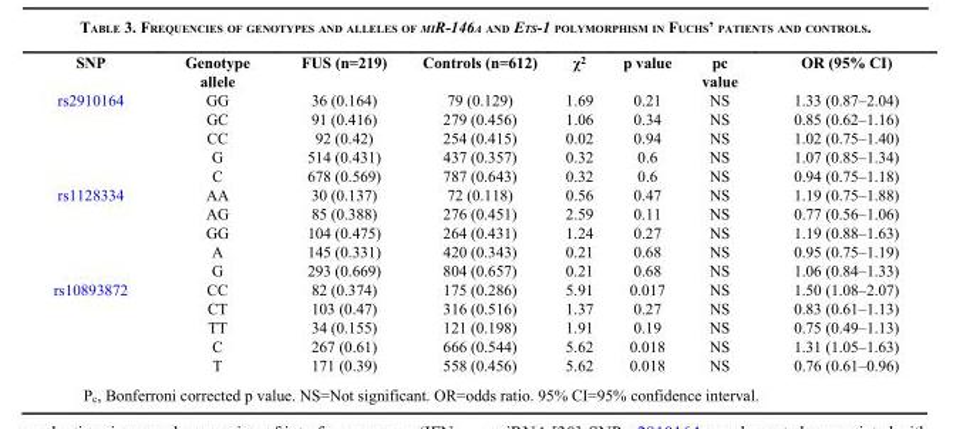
<table><thead><tr><td>SNP</td><td>Genotype allele</td><td>FUS (n=219)</td><td>Controls (n=612)</td><td>χ<sup>2</sup></td><td>p value</td><td>pc value</td><td>OR (95% CI)</td></tr></thead><tbody><tr><td rowspan="5">rs2910164</td><td>GG</td><td>36 (0.164)</td><td>79 (0.129)</td><td>1.69</td><td>0.21</td><td>NS</td><td>1.33 (0.87–2.04)</td></tr><tr><td>GC</td><td>91 (0.416)</td><td>279 (0.456)</td><td>1.06</td><td>0.34</td><td>NS</td><td>0.85 (0.62–1.16)</td></tr><tr><td>CC</td><td>92 (0.42)</td><td>254 (0.415)</td><td>0.02</td><td>0.94</td><td>NS</td><td>1.02 (0.75–1.40)</td></tr><tr><td>G</td><td>514 (0.431)</td><td>437 (0.357)</td><td>0.32</td><td>0.6</td><td>NS</td><td>1.07 (0.85–1.34)</td></tr><tr><td>C</td><td>678 (0.569)</td><td>787 (0.643)</td><td>0.32</td><td>0.6</td><td>NS</td><td>0.94 (0.75–1.18)</td></tr><tr><td rowspan="5">rs1128334</td><td>AA</td><td>30 (0.137)</td><td>72 (0.118)</td><td>0.56</td><td>0.47</td><td>NS</td><td>1.19 (0.75–1.88)</td></tr><tr><td>AG</td><td>85 (0.388)</td><td>276 (0.451)</td><td>2.59</td><td>0.11</td><td>NS</td><td>0.77 (0.56–1.06)</td></tr><tr><td>GG</td><td>104 (0.475)</td><td>264 (0.431)</td><td>1.24</td><td>0.27</td><td>NS</td><td>1.19 (0.88–1.63)</td></tr><tr><td>A</td><td>145 (0.331)</td><td>420 (0.343)</td><td>0.21</td><td>0.68</td><td>NS</td><td>0.95 (0.75–1.19)</td></tr><tr><td>G</td><td>293 (0.669)</td><td>804 (0.657)</td><td>0.21</td><td>0.68</td><td>NS</td><td>1.06 (0.84–1.33)</td></tr><tr><td rowspan="5">rs10893872</td><td>CC</td><td>82 (0.374)</td><td>175 (0.286)</td><td>5.91</td><td>0.017</td><td>NS</td><td>1.50 (1.08–2.07)</td></tr><tr><td>CT</td><td>103 (0.47)</td><td>316 (0.516)</td><td>1.37</td><td>0.27</td><td>NS</td><td>0.83 (0.61–1.13)</td></tr><tr><td>TT</td><td>34 (0.155)</td><td>121 (0.198)</td><td>1.91</td><td>0.19</td><td>NS</td><td>0.75 (0.49–1.13)</td></tr><tr><td>C</td><td>267 (0.61)</td><td>666 (0.544)</td><td>5.62</td><td>0.018</td><td>NS</td><td>1.31 (1.05–1.63)</td></tr><tr><td>T</td><td>171 (0.39)</td><td>558 (0.456)</td><td>5.62</td><td>0.018</td><td>NS</td><td>0.76 (0.61–0.96)</td></tr></tbody></table>